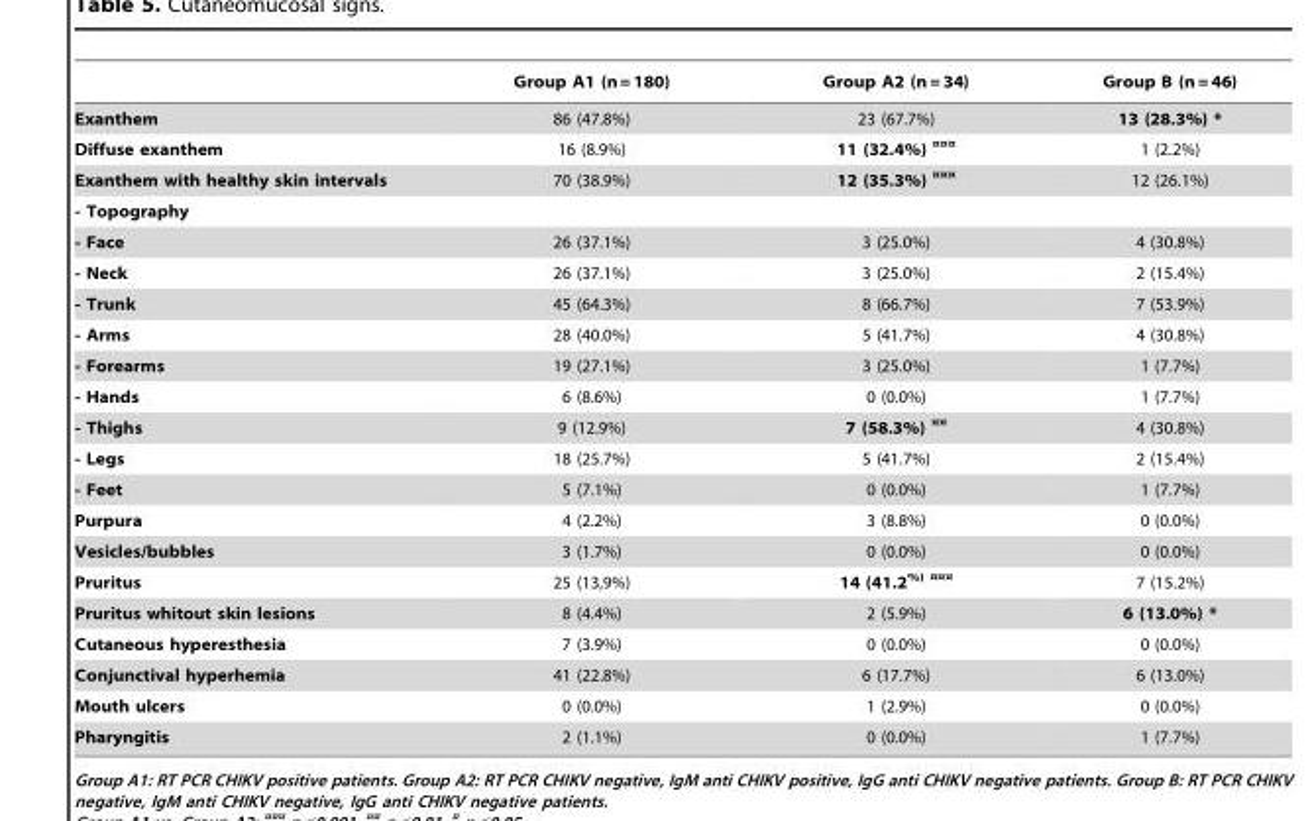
<table><thead><tr><td></td><td>Group A1 (n = 180)</td><td>Group A2 (n = 34)</td><td>Group B (n = 46)</td></tr></thead><tbody><tr><td>Exanthem</td><td>86 (47.8%)</td><td>23 (67.7%)</td><td>13 (28.3%) *</td></tr><tr><td>Diffuse exanthem</td><td>16 (8.9%)</td><td>11 (32.4%) <sup>¤¤¤</sup></td><td>1 (2.2%)</td></tr><tr><td>Exanthem with healthy skin intervals</td><td>70 (38.9%)</td><td>12 (35.3%) <sup>¤¤¤</sup></td><td>12 (26.1%)</td></tr><tr><td colspan="4">- Topography</td></tr><tr><td>- Face</td><td>26 (37.1%)</td><td>3 (25.0%)</td><td>4 (30.8%)</td></tr><tr><td>- Neck</td><td>26 (37.1%)</td><td>3 (25.0%)</td><td>2 (15.4%)</td></tr><tr><td>- Trunk</td><td>45 (64.3%)</td><td>8 (66.7%)</td><td>7 (53.9%)</td></tr><tr><td>- Arms</td><td>28 (40.0%)</td><td>5 (41.7%)</td><td>4 (30.8%)</td></tr><tr><td>- Forearms</td><td>19 (27.1%)</td><td>3 (25.0%)</td><td>1 (7.7%)</td></tr><tr><td>- Hands</td><td>6 (8.6%)</td><td>0 (0.0%)</td><td>1 (7.7%)</td></tr><tr><td>- Thighs</td><td>9 (12.9%)</td><td>7 (58.3%) <sup>¤¤</sup></td><td>4 (30.8%)</td></tr><tr><td>- Legs</td><td>18 (25.7%)</td><td>5 (41.7%)</td><td>2 (15.4%)</td></tr><tr><td>- Feet</td><td>5 (7.1%)</td><td>0 (0.0%)</td><td>1 (7.7%)</td></tr><tr><td>Purpura</td><td>4 (2.2%)</td><td>3 (8.8%)</td><td>0 (0.0%)</td></tr><tr><td>Vesicles/bubbles</td><td>3 (1.7%)</td><td>0 (0.0%)</td><td>0 (0.0%)</td></tr><tr><td>Pruritus</td><td>25 (13,9%)</td><td>14 (41.2<sup>%) ¤¤¤</sup></td><td>7 (15.2%)</td></tr><tr><td>Pruritus whitout skin lesions</td><td>8 (4.4%)</td><td>2 (5.9%)</td><td>6 (13.0%) *</td></tr><tr><td>Cutaneous hyperesthesia</td><td>7 (3.9%)</td><td>0 (0.0%)</td><td>0 (0.0%)</td></tr><tr><td>Conjunctival hyperhemia</td><td>41 (22.8%)</td><td>6 (17.7%)</td><td>6 (13.0%)</td></tr><tr><td>Mouth ulcers</td><td>0 (0.0%)</td><td>1 (2.9%)</td><td>0 (0.0%)</td></tr><tr><td>Pharyngitis</td><td>2 (1.1%)</td><td>0 (0.0%)</td><td>1 (7.7%)</td></tr></tbody></table>